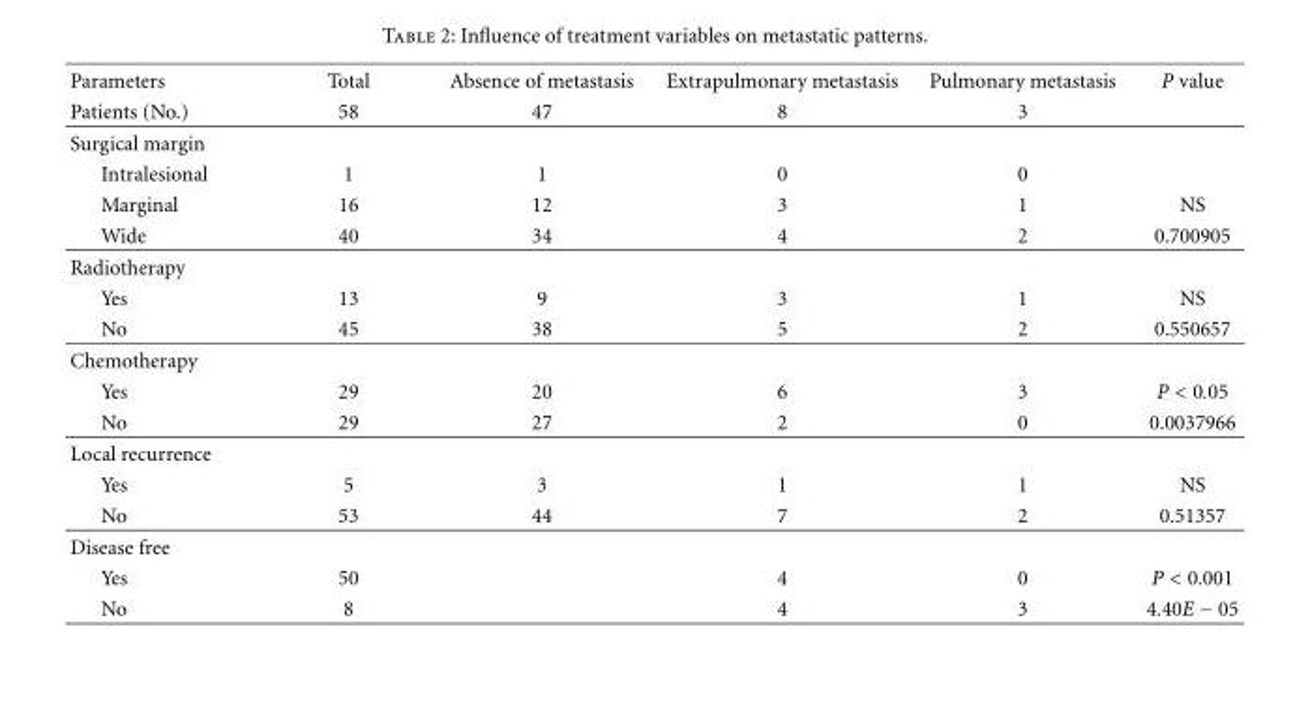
<table><thead><tr><td rowspan="2">Parameters Patients (No.)</td><td rowspan="2">Total 58</td><td rowspan="2">Absence of metastasis 47</td><td rowspan="2">Extrapulmonary metastasis 8</td><td rowspan="2">Pulmonary metastasis 3</td><td rowspan="2">P value</td></tr><tr></tr></thead><tbody><tr><td colspan="6">Surgical margin</td></tr><tr><td>Intralesional</td><td>1</td><td>1</td><td>0</td><td>0</td><td></td></tr><tr><td>Marginal</td><td>16</td><td>12</td><td>3</td><td>1</td><td>NS</td></tr><tr><td>Wide</td><td>40</td><td>34</td><td>4</td><td>2</td><td>0.700905</td></tr><tr><td colspan="6">Radiotherapy</td></tr><tr><td>Yes</td><td>13</td><td>9</td><td>3</td><td>1</td><td>NS</td></tr><tr><td>No</td><td>45</td><td>38</td><td>5</td><td>2</td><td>0.550657</td></tr><tr><td colspan="6">Chemotherapy</td></tr><tr><td>Yes</td><td>29</td><td>20</td><td>6</td><td>3</td><td>P &lt; 0.05</td></tr><tr><td>No</td><td>29</td><td>27</td><td>2</td><td>0</td><td>0.0037966</td></tr><tr><td colspan="6">Local recurrence</td></tr><tr><td>Yes</td><td>5</td><td>3</td><td>1</td><td>1</td><td>NS</td></tr><tr><td>No</td><td>53</td><td>44</td><td>7</td><td>2</td><td>0.51357</td></tr><tr><td colspan="6">Disease free</td></tr><tr><td>Yes</td><td>50</td><td></td><td>4</td><td>0</td><td>P &lt; 0.001</td></tr><tr><td>No</td><td>8</td><td></td><td>4</td><td>3</td><td>4.40E − 05</td></tr></tbody></table>